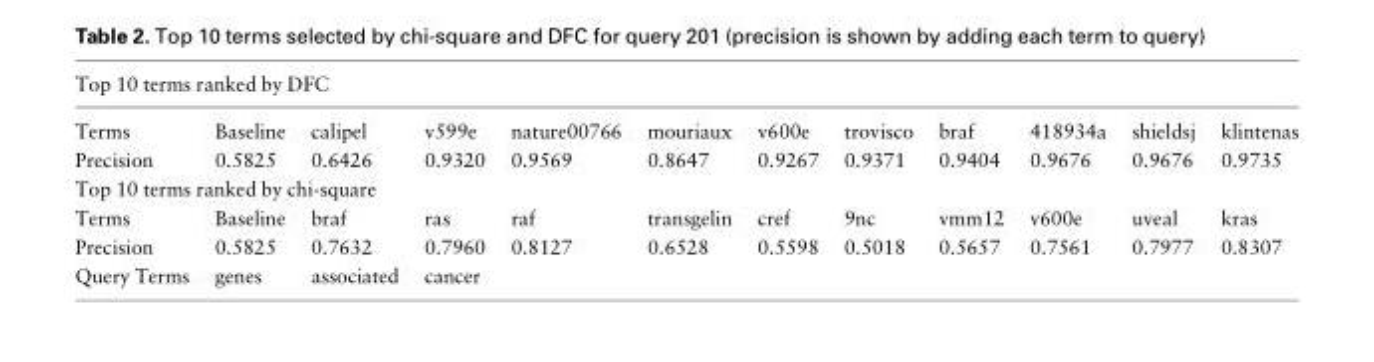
<table><thead><tr><td colspan="12">Top 10 terms ranked by DFC</td></tr><tr><td>Terms</td><td>Baseline</td><td>calipel</td><td>v599e</td><td>nature00766</td><td>mouriaux</td><td>v600e</td><td>trovisco</td><td>braf</td><td>418934a</td><td>shieldsj</td><td>klintenas</td></tr></thead><tbody><tr><td>Precision</td><td>0.5825</td><td>0.6426</td><td>0.9320</td><td>0.9569</td><td>0.8647</td><td>0.9267</td><td>0.9371</td><td>0.9404</td><td>0.9676</td><td>0.9676</td><td>0.9735</td></tr><tr><td colspan="12">Top 10 terms ranked by chi-square</td></tr><tr><td>Terms</td><td>Baseline</td><td>braf</td><td>ras</td><td>raf</td><td>transgelin</td><td>cref</td><td>9nc</td><td>vmm12</td><td>v600e</td><td>uveal</td><td>kras</td></tr><tr><td>Precision</td><td>0.5825</td><td>0.7632</td><td>0.7960</td><td>0.8127</td><td>0.6528</td><td>0.5598</td><td>0.5018</td><td>0.5657</td><td>0.7561</td><td>0.7977</td><td>0.8307</td></tr><tr><td>Query Terms</td><td>genes</td><td>associated</td><td>cancer</td><td></td><td></td><td></td><td></td><td></td><td></td><td></td><td></td></tr></tbody></table>